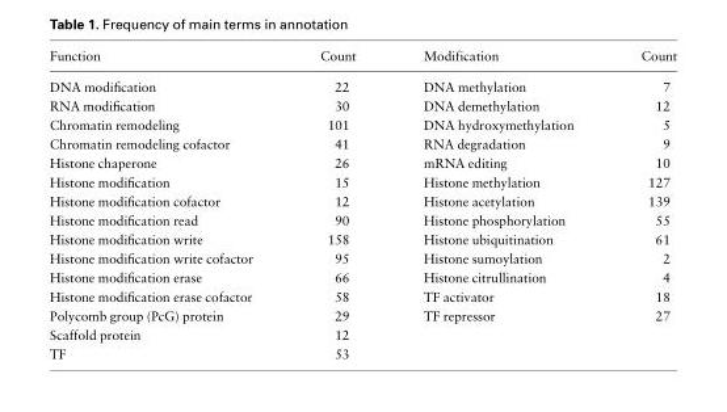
<table><thead><tr><td>Function</td><td>Count</td><td>Modification</td><td>Count</td></tr></thead><tbody><tr><td>DNA modification</td><td>22</td><td>DNA methylation</td><td>7</td></tr><tr><td>RNA modification</td><td>30</td><td>DNA demethylation</td><td>12</td></tr><tr><td>Chromatin remodeling</td><td>101</td><td>DNA hydroxymethylation</td><td>5</td></tr><tr><td>Chromatin remodeling cofactor</td><td>41</td><td>RNA degradation</td><td>9</td></tr><tr><td>Histone chaperone</td><td>26</td><td>mRNA editing</td><td>10</td></tr><tr><td>Histone modification</td><td>15</td><td>Histone methylation</td><td>127</td></tr><tr><td>Histone modification cofactor</td><td>12</td><td>Histone acetylation</td><td>139</td></tr><tr><td>Histone modification read</td><td>90</td><td>Histone phosphorylation</td><td>55</td></tr><tr><td>Histone modification write</td><td>158</td><td>Histone ubiquitination</td><td>61</td></tr><tr><td>Histone modification write cofactor</td><td>95</td><td>Histone sumoylation</td><td>2</td></tr><tr><td>Histone modification erase</td><td>66</td><td>Histone citrullination</td><td>4</td></tr><tr><td>Histone modification erase cofactor</td><td>58</td><td>TF activator</td><td>18</td></tr><tr><td>Polycomb group (PcG) protein</td><td>29</td><td>TF repressor</td><td>27</td></tr><tr><td>Scaffold protein</td><td>12</td><td></td><td></td></tr><tr><td>TF</td><td>53</td><td></td><td></td></tr></tbody></table>